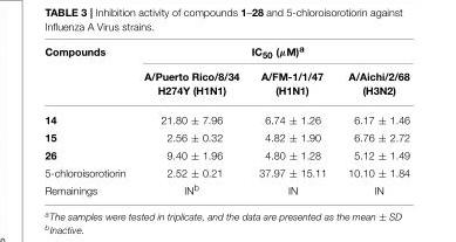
<table><thead><tr><td rowspan="2">Compounds</td><td colspan="3">IC<sub>50</sub> (µM)<sup>a</sup></td></tr><tr><td>A/Puerto Rico/8/34 H274Y (H1N1)</td><td>A/FM-1/1/47 (H1N1)</td><td>A/Aichi/2/68 (H3N2)</td></tr></thead><tbody><tr><td>14</td><td>21.80 ± 7.96</td><td>6.74 ± 1.26</td><td>6.17 ± 1.46</td></tr><tr><td>15</td><td>2.56 ± 0.32</td><td>4.82 ± 1.90</td><td>6.76 ± 2.72</td></tr><tr><td>26</td><td>9.40 ± 1.96</td><td>4.80 ± 1.28</td><td>5.12 ± 1.49</td></tr><tr><td>5-chloroisorotiorin</td><td>2.52 ± 0.21</td><td>37.97 ± 15.11</td><td>10.10 ± 1.84</td></tr><tr><td>Remainings</td><td>IN<sup>b</sup></td><td>IN</td><td>IN</td></tr></tbody></table>